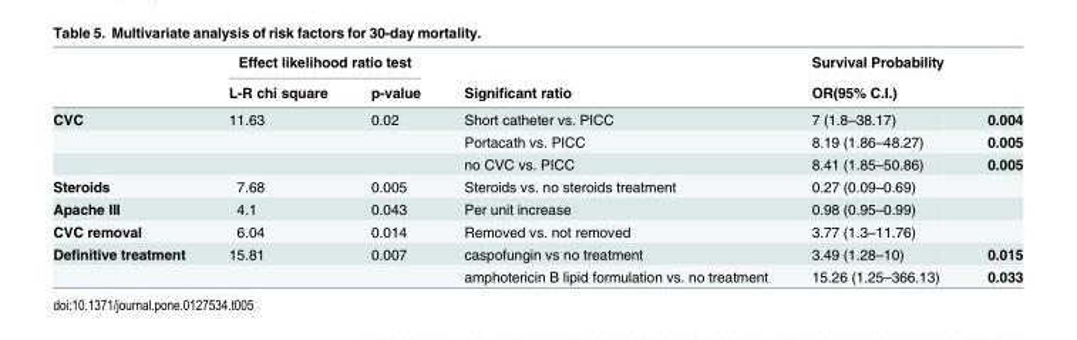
<table><thead><tr><td rowspan="2"></td><td colspan="2">Effect likelihood ratio test</td><td rowspan="2">Significant ratio</td><td rowspan="2">Survival Probability OR(95% C.I.)</td><td rowspan="2"></td></tr><tr><td>L-R chi square</td><td>p-value</td></tr></thead><tbody><tr><td rowspan="3">CVC</td><td>11.63</td><td>0.02</td><td>Short catheter vs. PICC</td><td>7 (1.8–38.17)</td><td>0.004</td></tr><tr><td></td><td></td><td>Portacath vs. PICC</td><td>8.19 (1.86–48.27)</td><td>0.005</td></tr><tr><td></td><td></td><td>no CVC vs. PICC</td><td>8.41 (1.85–50.86)</td><td>0.005</td></tr><tr><td>Steroids</td><td>7.68</td><td>0.005</td><td>Steroids vs. no steroids treatment</td><td>0.27 (0.09–0.69)</td><td></td></tr><tr><td>Apache III</td><td>4.1</td><td>0.043</td><td>Per unit increase</td><td>0.98 (0.95–0.99)</td><td></td></tr><tr><td>CVC removal</td><td>6.04</td><td>0.014</td><td>Removed vs. not removed</td><td>3.77 (1.3–11.76)</td><td></td></tr><tr><td rowspan="2">Definitive treatment</td><td>15.81</td><td>0.007</td><td>caspofungin vs no treatment</td><td>3.49 (1.28–10)</td><td>0.015</td></tr><tr><td></td><td></td><td>amphotericin B lipid formulation vs. no treatment</td><td>15.26 (1.25–366.13)</td><td>0.033</td></tr></tbody></table>